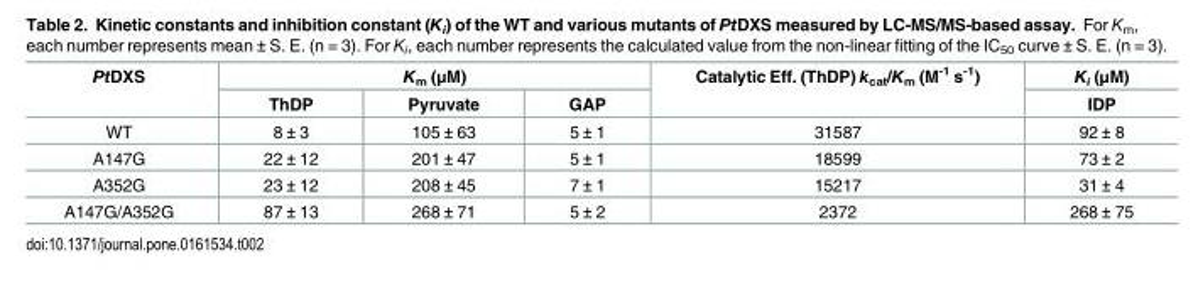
<table><thead><tr><td rowspan="2">PtDXS</td><td colspan="3">K<sub>m</sub> (μM)</td><td rowspan="2">Catalytic Eff. (ThDP) k<sub>cat</sub>/K<sub>m</sub> (M<sup>-1</sup> s<sup>-1</sup>)</td><td rowspan="2">K<sub>i</sub> (μM) IDP</td></tr><tr><td>ThDP</td><td>Pyruvate</td><td>GAP</td></tr></thead><tbody><tr><td>WT</td><td>8 ± 3</td><td>105 ± 63</td><td>5 ± 1</td><td>31587</td><td>92 ± 8</td></tr><tr><td>A147G</td><td>22 ± 12</td><td>201 ± 47</td><td>5 ± 1</td><td>18599</td><td>73 ± 2</td></tr><tr><td>A352G</td><td>23 ± 12</td><td>208 ± 45</td><td>7 ± 1</td><td>15217</td><td>31 ± 4</td></tr><tr><td>A147G/A352G</td><td>87 ± 13</td><td>268 ± 71</td><td>5 ± 2</td><td>2372</td><td>268 ± 75</td></tr></tbody></table>